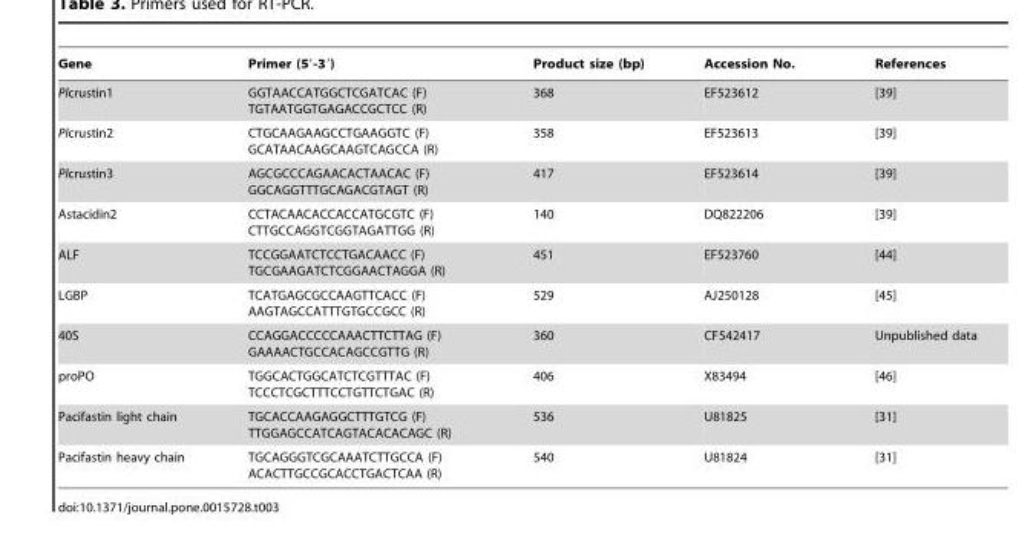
<table><thead><tr><td>Gene</td><td>Primer (5′-3′)</td><td>Product size (bp)</td><td>Accession No.</td><td>References</td></tr></thead><tbody><tr><td>Plcrustin1</td><td>GGTAACCATGGCTCGATCAC (F) TGTAATGGTGAGACCGCTCC (R)</td><td>368</td><td>EF523612</td><td>[39]</td></tr><tr><td>Plcrustin2</td><td>CTGCAAGAAGCCTGAAGGTC (F) GCATAACAAGCAAGTCAGCCA (R)</td><td>358</td><td>EF523613</td><td>[39]</td></tr><tr><td>Plcrustin3</td><td>AGCGCCCAGAACACTAACAC (F) GGCAGGTTTGCAGACGTAGT (R)</td><td>417</td><td>EF523614</td><td>[39]</td></tr><tr><td>Astacidin2</td><td>CCTACAACACCACCATGCGTC (F) CTTGCCAGGTCGGTAGATTGG (R)</td><td>140</td><td>DQ822206</td><td>[39]</td></tr><tr><td>ALF</td><td>TCCGGAATCTCCTGACAACC (F) TGCGAAGATCTCGGAACTAGGA (R)</td><td>451</td><td>EF523760</td><td>[44]</td></tr><tr><td>LGBP</td><td>TCATGAGCGCCAAGTTCACC (F) AAGTAGCCATTTGTGCCGCC (R)</td><td>529</td><td>AJ250128</td><td>[45]</td></tr><tr><td>40S</td><td>CCAGGACCCCCAAACTTCTTAG (F) GAAAACTGCCACAGCCGTTG (R)</td><td>360</td><td>CF542417</td><td>Unpublished data</td></tr><tr><td>proPO</td><td>TGGCACTGGCATCTCGTTTAC (F) TCCCTCGCTTTCCTGTTCTGAC (R)</td><td>406</td><td>X83494</td><td>[46]</td></tr><tr><td>Pacifastin light chain</td><td>TGCACCAAGAGGCTTTGTCG (F) TTGGAGCCATCAGTACACACAGC (R)</td><td>536</td><td>U81825</td><td>[31]</td></tr><tr><td>Pacifastin heavy chain</td><td>TGCAGGGTCGCAAATCTTGCCA (F) ACACTTGCCGCACCTGACTCAA (R)</td><td>540</td><td>U81824</td><td>[31]</td></tr></tbody></table>